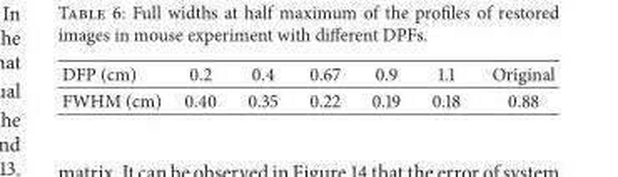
<table><thead><tr><td>DFP (cm)</td><td>0.2</td><td>0.4</td><td>0.67</td><td>0.9</td><td>1.1</td><td>Original</td></tr></thead><tbody><tr><td>FWHM (cm)</td><td>0.40</td><td>0.35</td><td>0.22</td><td>0.19</td><td>0.18</td><td>0.88</td></tr></tbody></table>